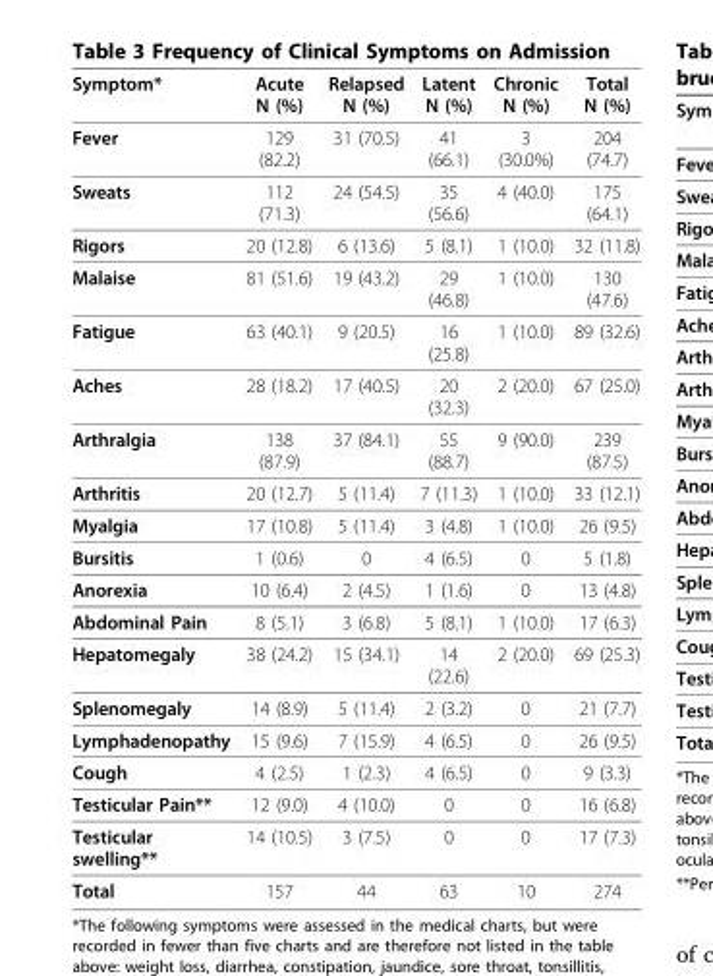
<table><thead><tr><td>Symptom*</td><td>Acute N (%)</td><td>Relapsed N (%)</td><td>Latent N (%)</td><td>Chronic N (%)</td><td>Total N (%)</td></tr></thead><tbody><tr><td>Fever</td><td>129 (82.2)</td><td>31 (70.5)</td><td>41 (66.1)</td><td>3 (30.0%)</td><td>204 (74.7)</td></tr><tr><td>Sweats</td><td>112 (71.3)</td><td>24 (54.5)</td><td>35 (56.6)</td><td>4 (40.0)</td><td>175 (64.1)</td></tr><tr><td>Rigors</td><td>20 (12.8)</td><td>6 (13.6)</td><td>5 (8.1)</td><td>1 (10.0)</td><td>32 (11.8)</td></tr><tr><td>Malaise</td><td>81 (51.6)</td><td>19 (43.2)</td><td>29 (46.8)</td><td>1 (10.0)</td><td>130 (47.6)</td></tr><tr><td>Fatigue</td><td>63 (40.1)</td><td>9 (20.5)</td><td>16 (25.8)</td><td>1 (10.0)</td><td>89 (32.6)</td></tr><tr><td>Aches</td><td>28 (18.2)</td><td>17 (40.5)</td><td>20 (32.3)</td><td>2 (20.0)</td><td>67 (25.0)</td></tr><tr><td>Arthralgia</td><td>138 (87.9)</td><td>37 (84.1)</td><td>55 (88.7)</td><td>9 (90.0)</td><td>239 (87.5)</td></tr><tr><td>Arthritis</td><td>20 (12.7)</td><td>5 (11.4)</td><td>7 (11.3)</td><td>1 (10.0)</td><td>33 (12.1)</td></tr><tr><td>Myalgia</td><td>17 (10.8)</td><td>5 (11.4)</td><td>3 (4.8)</td><td>1 (10.0)</td><td>26 (9.5)</td></tr><tr><td>Bursitis</td><td>1 (0.6)</td><td>0</td><td>4 (6.5)</td><td>0</td><td>5 (1.8)</td></tr><tr><td>Anorexia</td><td>10 (6.4)</td><td>2 (4.5)</td><td>1 (1.6)</td><td>0</td><td>13 (4.8)</td></tr><tr><td>Abdominal Pain</td><td>8 (5.1)</td><td>3 (6.8)</td><td>5 (8.1)</td><td>1 (10.0)</td><td>17 (6.3)</td></tr><tr><td>Hepatomegaly</td><td>38 (24.2)</td><td>15 (34.1)</td><td>14 (22.6)</td><td>2 (20.0)</td><td>69 (25.3)</td></tr><tr><td>Splenomegaly</td><td>14 (8.9)</td><td>5 (11.4)</td><td>2 (3.2)</td><td>0</td><td>21 (7.7)</td></tr><tr><td>Lymphadenopathy</td><td>15 (9.6)</td><td>7 (15.9)</td><td>4 (6.5)</td><td>0</td><td>26 (9.5)</td></tr><tr><td>Cough</td><td>4 (2.5)</td><td>1 (2.3)</td><td>4 (6.5)</td><td>0</td><td>9 (3.3)</td></tr><tr><td>Testicular Pain**</td><td>12 (9.0)</td><td>4 (10.0)</td><td>0</td><td>0</td><td>16 (6.8)</td></tr><tr><td>Testicular swelling**</td><td>14 (10.5)</td><td>3 (7.5)</td><td>0</td><td>0</td><td>17 (7.3)</td></tr><tr><td>Total</td><td>157</td><td>44</td><td>63</td><td>10</td><td>274</td></tr></tbody></table>